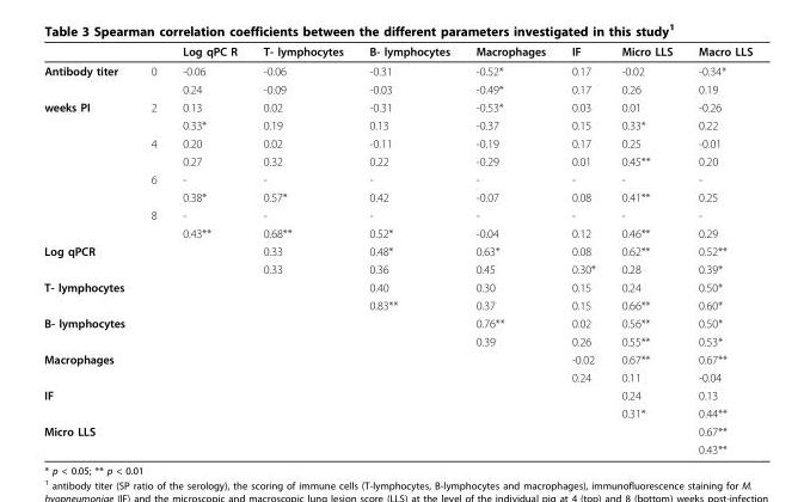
<table><thead><tr><td></td><td></td><td>Log qPC R</td><td>T- lymphocytes</td><td>B- lymphocytes</td><td>Macrophages</td><td>IF</td><td>Micro LLS</td><td>Macro LLS</td></tr></thead><tbody><tr><td rowspan="2">Antibody titer</td><td>0</td><td>-0.06</td><td>-0.06</td><td>-0.31</td><td>-0.52*</td><td>0.17</td><td>-0.02</td><td>-0.34*</td></tr><tr><td></td><td>0.24</td><td>-0.09</td><td>-0.03</td><td>-0.49*</td><td>0.17</td><td>0.26</td><td>0.19</td></tr><tr><td rowspan="8">weeks PI</td><td>2</td><td>0.13</td><td>0.02</td><td>-0.31</td><td>-0.53*</td><td>0.03</td><td>0.01</td><td>-0.26</td></tr><tr><td></td><td>0.33*</td><td>0.19</td><td>0.13</td><td>-0.37</td><td>0.15</td><td>0.33*</td><td>0.22</td></tr><tr><td>4</td><td>0.20</td><td>0.02</td><td>-0.11</td><td>-0.19</td><td>0.17</td><td>0.25</td><td>-0.01</td></tr><tr><td></td><td>0.27</td><td>0.32</td><td>0.22</td><td>-0.29</td><td>0.01</td><td>0.45**</td><td>0.20</td></tr><tr><td>6</td><td>-</td><td>-</td><td>-</td><td>-</td><td>-</td><td>-</td><td>-</td></tr><tr><td></td><td>0.38*</td><td>0.57*</td><td>0.42</td><td>-0.07</td><td>0.08</td><td>0.41**</td><td>0.25</td></tr><tr><td>8</td><td>-</td><td>-</td><td>-</td><td>-</td><td>-</td><td>-</td><td>-</td></tr><tr><td></td><td>0.43**</td><td>0.68**</td><td>0.52*</td><td>-0.04</td><td>0.12</td><td>0.46**</td><td>0.29</td></tr><tr><td rowspan="2">Log qPCR</td><td></td><td></td><td>0.33</td><td>0.48*</td><td>0.63*</td><td>0.08</td><td>0.62**</td><td>0.52**</td></tr><tr><td></td><td></td><td>0.33</td><td>0.36</td><td>0.45</td><td>0.30*</td><td>0.28</td><td>0.39*</td></tr><tr><td rowspan="2">T- lymphocytes</td><td></td><td></td><td></td><td>0.40</td><td>0.30</td><td>0.15</td><td>0.24</td><td>0.50*</td></tr><tr><td></td><td></td><td></td><td>0.83**</td><td>0.37</td><td>0.15</td><td>0.66**</td><td>0.60*</td></tr><tr><td rowspan="2">B- lymphocytes</td><td></td><td></td><td></td><td></td><td>0.76**</td><td>0.02</td><td>0.56**</td><td>0.50*</td></tr><tr><td></td><td></td><td></td><td></td><td>0.39</td><td>0.26</td><td>0.55**</td><td>0.53*</td></tr><tr><td rowspan="2">Macrophages</td><td></td><td></td><td></td><td></td><td></td><td>-0.02</td><td>0.67**</td><td>0.67**</td></tr><tr><td></td><td></td><td></td><td></td><td></td><td>0.24</td><td>0.11</td><td>-0.04</td></tr><tr><td rowspan="2">IF</td><td></td><td></td><td></td><td></td><td></td><td></td><td>0.24</td><td>0.13</td></tr><tr><td></td><td></td><td></td><td></td><td></td><td></td><td>0.31*</td><td>0.44**</td></tr><tr><td rowspan="2">Micro LLS</td><td></td><td></td><td></td><td></td><td></td><td></td><td></td><td>0.67**</td></tr><tr><td></td><td></td><td></td><td></td><td></td><td></td><td></td><td>0.43**</td></tr></tbody></table>